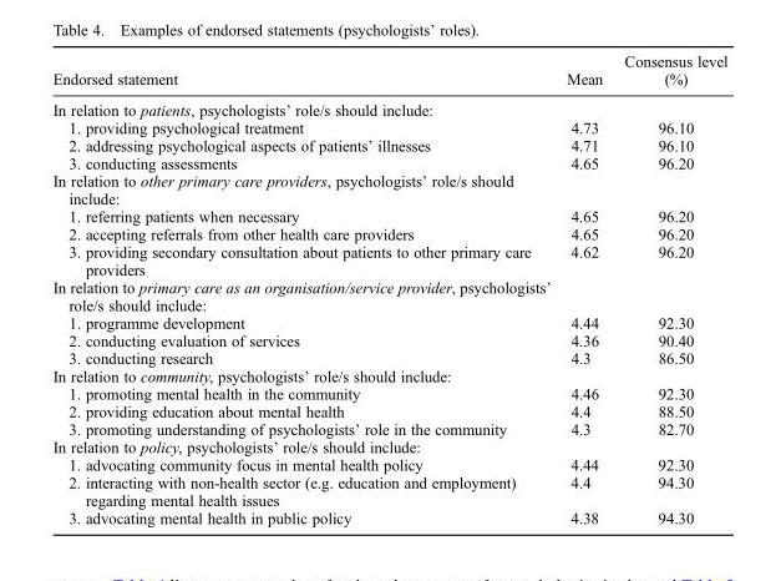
<table><thead><tr><td>Endorsed statement</td><td>Mean</td><td>Consensus level (%)</td></tr></thead><tbody><tr><td colspan="3">In relation to patients, psychologists’ role/s should include:</td></tr><tr><td>1. providing psychological treatment</td><td>4.73</td><td>96.10</td></tr><tr><td>2. addressing psychological aspects of patients’ illnesses</td><td>4.71</td><td>96.10</td></tr><tr><td>3. conducting assessments</td><td>4.65</td><td>96.20</td></tr><tr><td colspan="3">In relation to other primary care providers, psychologists’ role/s should include:</td></tr><tr><td>1. referring patients when necessary</td><td>4.65</td><td>96.20</td></tr><tr><td>2. accepting referrals from other health care providers</td><td>4.65</td><td>96.20</td></tr><tr><td>3. providing secondary consultation about patients to other primary care providers</td><td>4.62</td><td>96.20</td></tr><tr><td colspan="3">In relation to primary care as an organisation/service provider, psychologists’ role/s should include:</td></tr><tr><td>1. programme development</td><td>4.44</td><td>92.30</td></tr><tr><td>2. conducting evaluation of services</td><td>4.36</td><td>90.40</td></tr><tr><td>3. conducting research</td><td>4.3</td><td>86.50</td></tr><tr><td colspan="3">In relation to community, psychologists’ role/s should include:</td></tr><tr><td>1. promoting mental health in the community</td><td>4.46</td><td>92.30</td></tr><tr><td>2. providing education about mental health</td><td>4.4</td><td>88.50</td></tr><tr><td>3. promoting understanding of psychologists’ role in the community</td><td>4.3</td><td>82.70</td></tr><tr><td colspan="3">In relation to policy, psychologists’ role/s should include:</td></tr><tr><td>1. advocating community focus in mental health policy</td><td>4.44</td><td>92.30</td></tr><tr><td>2. interacting with non-health sector (e.g. education and employment) regarding mental health issues</td><td>4.4</td><td>94.30</td></tr><tr><td>3. advocating mental health in public policy</td><td>4.38</td><td>94.30</td></tr></tbody></table>